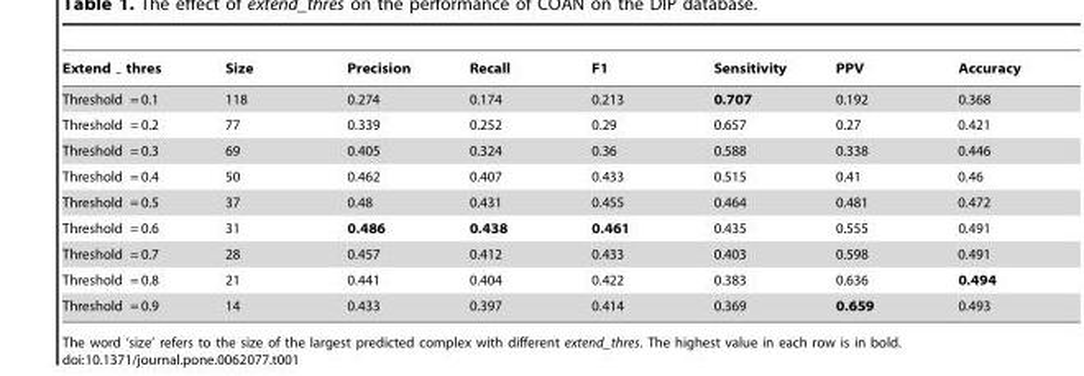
<table><thead><tr><td>Extend <sub>–</sub> thres</td><td>Size</td><td>Precision</td><td>Recall</td><td>F1</td><td>Sensitivity</td><td>PPV</td><td>Accuracy</td></tr></thead><tbody><tr><td>Threshold = 0.1</td><td>118</td><td>0.274</td><td>0.174</td><td>0.213</td><td>0.707</td><td>0.192</td><td>0.368</td></tr><tr><td>Threshold = 0.2</td><td>77</td><td>0.339</td><td>0.252</td><td>0.29</td><td>0.657</td><td>0.27</td><td>0.421</td></tr><tr><td>Threshold = 0.3</td><td>69</td><td>0.405</td><td>0.324</td><td>0.36</td><td>0.588</td><td>0.338</td><td>0.446</td></tr><tr><td>Threshold = 0.4</td><td>50</td><td>0.462</td><td>0.407</td><td>0.433</td><td>0.515</td><td>0.41</td><td>0.46</td></tr><tr><td>Threshold = 0.5</td><td>37</td><td>0.48</td><td>0.431</td><td>0.455</td><td>0.464</td><td>0.481</td><td>0.472</td></tr><tr><td>Threshold = 0.6</td><td>31</td><td>0.486</td><td>0.438</td><td>0.461</td><td>0.435</td><td>0.555</td><td>0.491</td></tr><tr><td>Threshold = 0.7</td><td>28</td><td>0.457</td><td>0.412</td><td>0.433</td><td>0.403</td><td>0.598</td><td>0.491</td></tr><tr><td>Threshold = 0.8</td><td>21</td><td>0.441</td><td>0.404</td><td>0.422</td><td>0.383</td><td>0.636</td><td>0.494</td></tr><tr><td>Threshold = 0.9</td><td>14</td><td>0.433</td><td>0.397</td><td>0.414</td><td>0.369</td><td>0.659</td><td>0.493</td></tr></tbody></table>